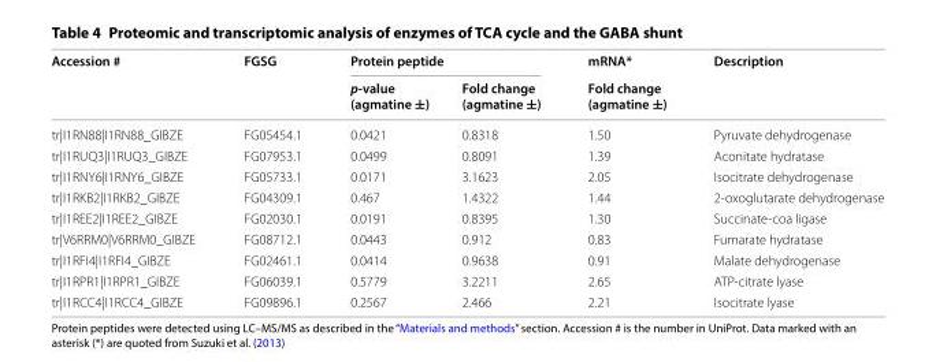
<table><thead><tr><td rowspan="2">Accession #</td><td rowspan="2">FGSG</td><td colspan="2">Protein peptide</td><td rowspan="2">mRNA* Fold change (agmatine ±)</td><td rowspan="2">Description</td></tr><tr><td>p-value (agmatine ±)</td><td>Fold change (agmatine ±)</td></tr></thead><tbody><tr><td>tr|I1RN88|I1RN88_GIBZE</td><td>FG05454.1</td><td>0.0421</td><td>0.8318</td><td>1.50</td><td>Pyruvate dehydrogenase</td></tr><tr><td>tr|I1RUQ3|I1RUQ3_GIBZE</td><td>FG07953.1</td><td>0.0499</td><td>0.8091</td><td>1.39</td><td>Aconitate hydratase</td></tr><tr><td>tr|I1RNY6|I1RNY6_GIBZE</td><td>FG05733.1</td><td>0.0171</td><td>3.1623</td><td>2.05</td><td>Isocitrate dehydrogenase</td></tr><tr><td>tr|I1RKB2|I1RKB2_GIBZE</td><td>FG04309.1</td><td>0.467</td><td>1.4322</td><td>1.44</td><td>2-oxoglutarate dehydrogenase</td></tr><tr><td>tr|I1REE2|I1REE2_GIBZE</td><td>FG02030.1</td><td>0.0191</td><td>0.8395</td><td>1.30</td><td>Succinate-coa ligase</td></tr><tr><td>tr|V6RRM0|V6RRM0_GIBZE</td><td>FG08712.1</td><td>0.0443</td><td>0.912</td><td>0.83</td><td>Fumarate hydratase</td></tr><tr><td>tr|I1RFI4|I1RFI4_GIBZE</td><td>FG02461.1</td><td>0.0414</td><td>0.9638</td><td>0.91</td><td>Malate dehydrogenase</td></tr><tr><td>tr|I1RPR1|I1RPR1_GIBZE</td><td>FG06039.1</td><td>0.5779</td><td>3.2211</td><td>2.65</td><td>ATP-citrate lyase</td></tr><tr><td>tr|I1RCC4|I1RCC4_GIBZE</td><td>FG09896.1</td><td>0.2567</td><td>2.466</td><td>2.21</td><td>Isocitrate lyase</td></tr></tbody></table>